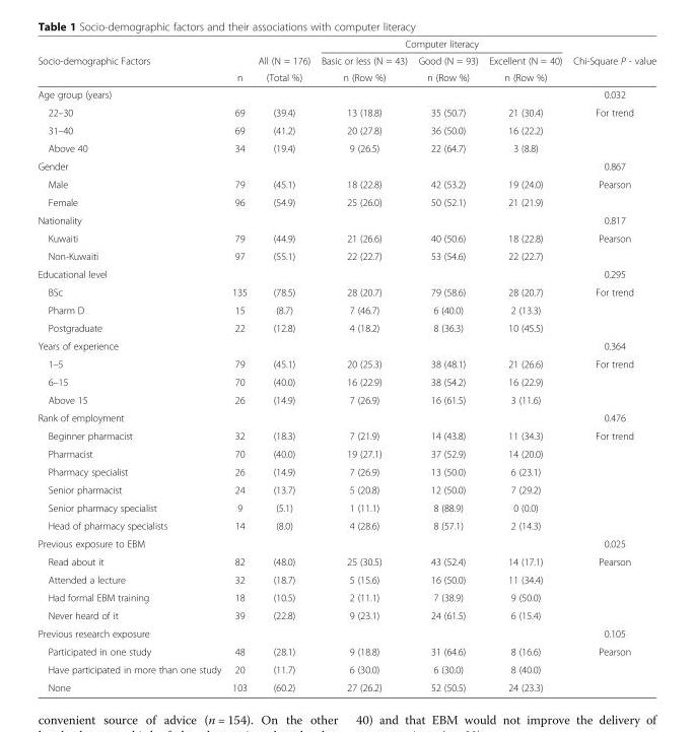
<table><thead><tr><td rowspan="3">Socio-demographic Factors</td><td rowspan="3">n</td><td rowspan="3">All (N = 176) (Total %)</td><td colspan="3">Computer literacy</td><td rowspan="3">Chi-Square P - value</td></tr><tr><td rowspan="2">Basic or less (N = 43) n (Row %)</td><td rowspan="2">Good (N = 93) n (Row %)</td><td rowspan="2">Excellent (N = 40) n (Row %)</td></tr><tr></tr></thead><tbody><tr><td>Age group (years)</td><td></td><td></td><td></td><td></td><td></td><td>0.032</td></tr><tr><td>22–30</td><td>69</td><td>(39.4)</td><td>13 (18.8)</td><td>35 (50.7)</td><td>21 (30.4)</td><td>For trend</td></tr><tr><td>31–40</td><td>69</td><td>(41.2)</td><td>20 (27.8)</td><td>36 (50.0)</td><td>16 (22.2)</td><td></td></tr><tr><td>Above 40</td><td>34</td><td>(19.4)</td><td>9 (26.5)</td><td>22 (64.7)</td><td>3 (8.8)</td><td></td></tr><tr><td colspan="6">Gender</td><td>0.867</td></tr><tr><td>Male</td><td>79</td><td>(45.1)</td><td>18 (22.8)</td><td>42 (53.2)</td><td>19 (24.0)</td><td>Pearson</td></tr><tr><td>Female</td><td>96</td><td>(54.9)</td><td>25 (26.0)</td><td>50 (52.1)</td><td>21 (21.9)</td><td></td></tr><tr><td colspan="6">Nationality</td><td>0.817</td></tr><tr><td>Kuwaiti</td><td>79</td><td>(44.9)</td><td>21 (26.6)</td><td>40 (50.6)</td><td>18 (22.8)</td><td>Pearson</td></tr><tr><td>Non-Kuwaiti</td><td>97</td><td>(55.1)</td><td>22 (22.7)</td><td>53 (54.6)</td><td>22 (22.7)</td><td></td></tr><tr><td colspan="6">Educational level</td><td>0.295</td></tr><tr><td>BSc</td><td>135</td><td>(78.5)</td><td>28 (20.7)</td><td>79 (58.6)</td><td>28 (20.7)</td><td>For trend</td></tr><tr><td>Pharm D</td><td>15</td><td>(8.7)</td><td>7 (46.7)</td><td>6 (40.0)</td><td>2 (13.3)</td><td></td></tr><tr><td>Postgraduate</td><td>22</td><td>(12.8)</td><td>4 (18.2)</td><td>8 (36.3)</td><td>10 (45.5)</td><td></td></tr><tr><td colspan="6">Years of experience</td><td>0.364</td></tr><tr><td>1–5</td><td>79</td><td>(45.1)</td><td>20 (25.3)</td><td>38 (48.1)</td><td>21 (26.6)</td><td>For trend</td></tr><tr><td>6–15</td><td>70</td><td>(40.0)</td><td>16 (22.9)</td><td>38 (54.2)</td><td>16 (22.9)</td><td></td></tr><tr><td>Above 15</td><td>26</td><td>(14.9)</td><td>7 (26.9)</td><td>16 (61.5)</td><td>3 (11.6)</td><td></td></tr><tr><td colspan="6">Rank of employment</td><td>0.476</td></tr><tr><td>Beginner pharmacist</td><td>32</td><td>(18.3)</td><td>7 (21.9)</td><td>14 (43.8)</td><td>11 (34.3)</td><td>For trend</td></tr><tr><td>Pharmacist</td><td>70</td><td>(40.0)</td><td>19 (27.1)</td><td>37 (52.9)</td><td>14 (20.0)</td><td></td></tr><tr><td>Pharmacy specialist</td><td>26</td><td>(14.9)</td><td>7 (26.9)</td><td>13 (50.0)</td><td>6 (23.1)</td><td></td></tr><tr><td>Senior pharmacist</td><td>24</td><td>(13.7)</td><td>5 (20.8)</td><td>12 (50.0)</td><td>7 (29.2)</td><td></td></tr><tr><td>Senior pharmacy specialist</td><td>9</td><td>(5.1)</td><td>1 (11.1)</td><td>8 (88.9)</td><td>0 (0.0)</td><td></td></tr><tr><td>Head of pharmacy specialists</td><td>14</td><td>(8.0)</td><td>4 (28.6)</td><td>8 (57.1)</td><td>2 (14.3)</td><td></td></tr><tr><td colspan="6">Previous exposure to EBM</td><td>0.025</td></tr><tr><td>Read about it</td><td>82</td><td>(48.0)</td><td>25 (30.5)</td><td>43 (52.4)</td><td>14 (17.1)</td><td>Pearson</td></tr><tr><td>Attended a lecture</td><td>32</td><td>(18.7)</td><td>5 (15.6)</td><td>16 (50.0)</td><td>11 (34.4)</td><td></td></tr><tr><td>Had formal EBM training</td><td>18</td><td>(10.5)</td><td>2 (11.1)</td><td>7 (38.9)</td><td>9 (50.0)</td><td></td></tr><tr><td>Never heard of it</td><td>39</td><td>(22.8)</td><td>9 (23.1)</td><td>24 (61.5)</td><td>6 (15.4)</td><td></td></tr><tr><td colspan="6">Previous research exposure</td><td>0.105</td></tr><tr><td>Participated in one study</td><td>48</td><td>(28.1)</td><td>9 (18.8)</td><td>31 (64.6)</td><td>8 (16.6)</td><td>Pearson</td></tr><tr><td>Have participated in more than one study</td><td>20</td><td>(11.7)</td><td>6 (30.0)</td><td>6 (30.0)</td><td>8 (40.0)</td><td></td></tr><tr><td>None</td><td>103</td><td>(60.2)</td><td>27 (26.2)</td><td>52 (50.5)</td><td>24 (23.3)</td><td></td></tr></tbody></table>